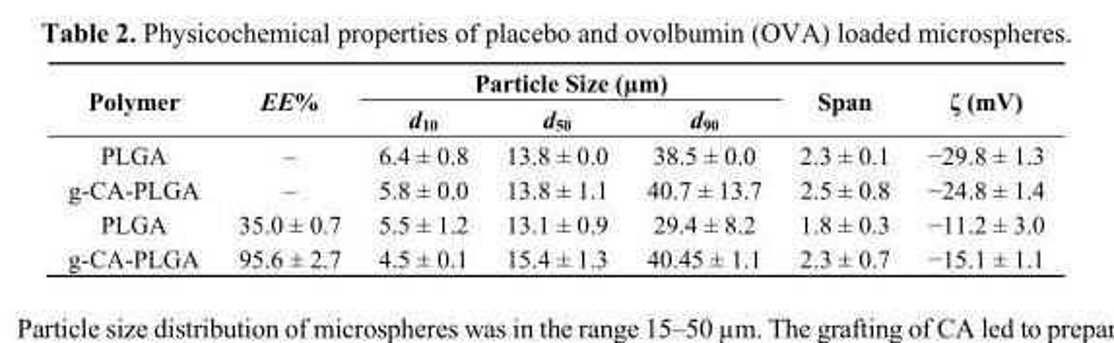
<table><thead><tr><td rowspan="2">Polymer</td><td rowspan="2">EE%</td><td colspan="3">Particle Size (µm)</td><td rowspan="2">Span</td><td rowspan="2">ζ (mV)</td></tr><tr><td>d<sub>10</sub></td><td>d<sub>50</sub></td><td>d<sub>90</sub></td></tr></thead><tbody><tr><td>PLGA</td><td>–</td><td>6.4 ± 0.8</td><td>13.8 ± 0.0</td><td>38.5 ± 0.0</td><td>2.3 ± 0.1</td><td>−29.8 ± 1.3</td></tr><tr><td>g-CA-PLGA</td><td>–</td><td>5.8 ± 0.0</td><td>13.8 ± 1.1</td><td>40.7 ± 13.7</td><td>2.5 ± 0.8</td><td>−24.8 ± 1.4</td></tr><tr><td>PLGA</td><td>35.0 ± 0.7</td><td>5.5 ± 1.2</td><td>13.1 ± 0.9</td><td>29.4 ± 8.2</td><td>1.8 ± 0.3</td><td>−11.2 ± 3.0</td></tr><tr><td>g-CA-PLGA</td><td>95.6 ± 2.7</td><td>4.5 ± 0.1</td><td>15.4 ± 1.3</td><td>40.45 ± 1.1</td><td>2.3 ± 0.7</td><td>−15.1 ± 1.1</td></tr></tbody></table>